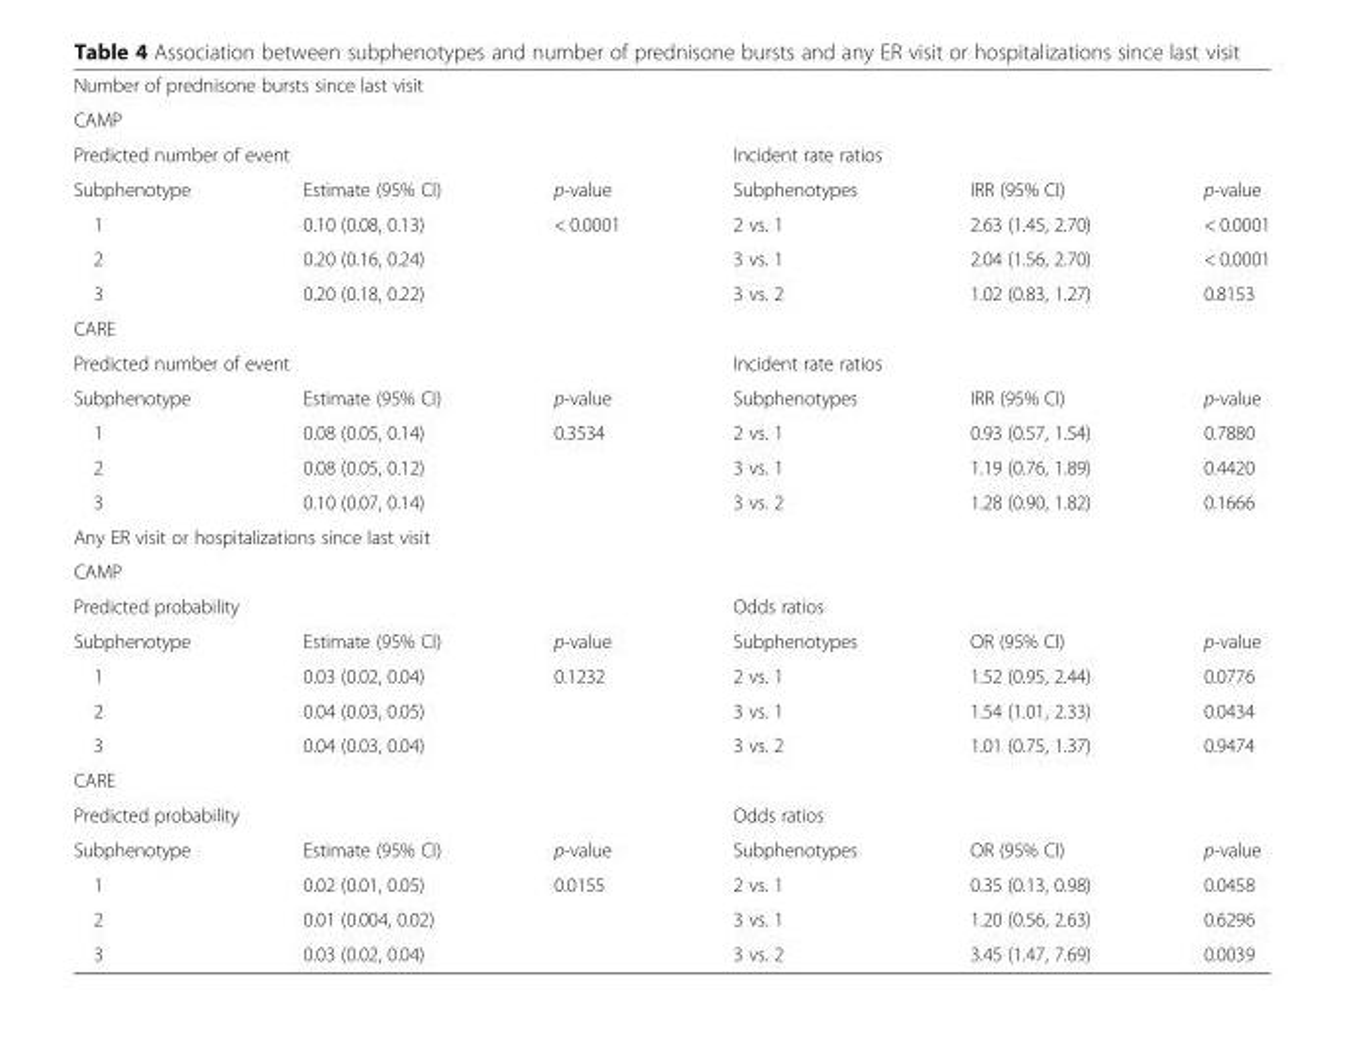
<table><tbody><tr><td colspan="6">Number of prednisone bursts since last visit</td></tr><tr><td colspan="6">CAMP</td></tr><tr><td colspan="3">Predicted number of event</td><td colspan="3">Incident rate ratios</td></tr><tr><td>Subphenotype</td><td>Estimate (95% CI)</td><td>p-value</td><td>Subphenotypes</td><td>IRR (95% CI)</td><td>p-value</td></tr><tr><td>1</td><td>0.10 (0.08, 0.13)</td><td>&lt; 0.0001</td><td>2 vs. 1</td><td>2.63 (1.45, 2.70)</td><td>&lt; 0.0001</td></tr><tr><td>2</td><td>0.20 (0.16, 0.24)</td><td></td><td>3 vs. 1</td><td>2.04 (1.56, 2.70)</td><td>&lt; 0.0001</td></tr><tr><td>3</td><td>0.20 (0.18, 0.22)</td><td></td><td>3 vs. 2</td><td>1.02 (0.83, 1.27)</td><td>0.8153</td></tr><tr><td colspan="6">CARE</td></tr><tr><td colspan="3">Predicted number of event</td><td colspan="3">Incident rate ratios</td></tr><tr><td>Subphenotype</td><td>Estimate (95% CI)</td><td>p-value</td><td>Subphenotypes</td><td>IRR (95% CI)</td><td>p-value</td></tr><tr><td>1</td><td>0.08 (0.05, 0.14)</td><td>0.3534</td><td>2 vs. 1</td><td>0.93 (0.57, 1.54)</td><td>0.7880</td></tr><tr><td>2</td><td>0.08 (0.05, 0.12)</td><td></td><td>3 vs. 1</td><td>1.19 (0.76, 1.89)</td><td>0.4420</td></tr><tr><td>3</td><td>0.10 (0.07, 0.14)</td><td></td><td>3 vs. 2</td><td>1.28 (0.90, 1.82)</td><td>0.1666</td></tr><tr><td colspan="6">Any ER visit or hospitalizations since last visit</td></tr><tr><td colspan="6">CAMP</td></tr><tr><td colspan="3">Predicted probability</td><td colspan="3">Odds ratios</td></tr><tr><td>Subphenotype</td><td>Estimate (95% CI)</td><td>p-value</td><td>Subphenotypes</td><td>OR (95% CI)</td><td>p-value</td></tr><tr><td>1</td><td>0.03 (0.02, 0.04)</td><td>0.1232</td><td>2 vs. 1</td><td>1.52 (0.95, 2.44)</td><td>0.0776</td></tr><tr><td>2</td><td>0.04 (0.03, 0.05)</td><td></td><td>3 vs. 1</td><td>1.54 (1.01, 2.33)</td><td>0.0434</td></tr><tr><td>3</td><td>0.04 (0.03, 0.04)</td><td></td><td>3 vs. 2</td><td>1.01 (0.75, 1.37)</td><td>0.9474</td></tr><tr><td colspan="6">CARE</td></tr><tr><td colspan="3">Predicted probability</td><td colspan="3">Odds ratios</td></tr><tr><td>Subphenotype</td><td>Estimate (95% CI)</td><td>p-value</td><td>Subphenotypes</td><td>OR (95% CI)</td><td>p-value</td></tr><tr><td>1</td><td>0.02 (0.01, 0.05)</td><td>0.0155</td><td>2 vs. 1</td><td>0.35 (0.13, 0.98)</td><td>0.0458</td></tr><tr><td>2</td><td>0.01 (0.004, 0.02)</td><td></td><td>3 vs. 1</td><td>1.20 (0.56, 2.63)</td><td>0.6296</td></tr><tr><td>3</td><td>0.03 (0.02, 0.04)</td><td></td><td>3 vs. 2</td><td>3.45 (1.47, 7.69)</td><td>0.0039</td></tr></tbody></table>